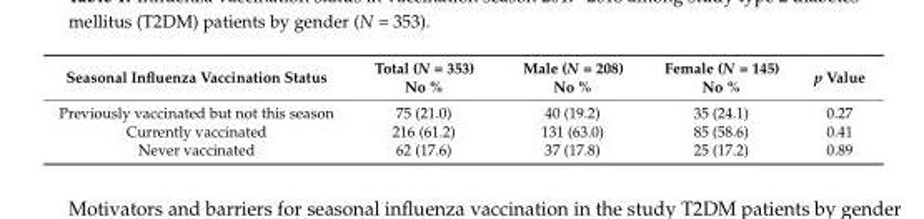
<table><thead><tr><td>Seasonal Influenza Vaccination Status</td><td>Total (N = 353) No %</td><td>Male (N = 208) No %</td><td>Female (N = 145) No %</td><td>p Value</td></tr></thead><tbody><tr><td>Previously vaccinated but not this season</td><td>75 (21.0)</td><td>40 (19.2)</td><td>35 (24.1)</td><td>0.27</td></tr><tr><td>Currently vaccinated</td><td>216 (61.2)</td><td>131 (63.0)</td><td>85 (58.6)</td><td>0.41</td></tr><tr><td>Never vaccinated</td><td>62 (17.6)</td><td>37 (17.8)</td><td>25 (17.2)</td><td>0.89</td></tr></tbody></table>